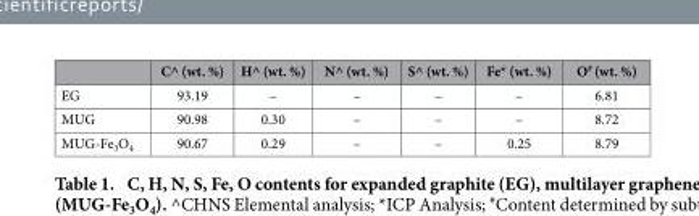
<table><thead><tr><td></td><td>C^ (wt. %)</td><td>H^ (wt. %)</td><td>N^ (wt. %)</td><td>S^ (wt. %)</td><td>Fe* (wt. %)</td><td>O<sup>#</sup> (wt. %)</td></tr></thead><tbody><tr><td>EG</td><td>93.19</td><td>–</td><td>–</td><td>–</td><td>–</td><td>6.81</td></tr><tr><td>MUG</td><td>90.98</td><td>0.30</td><td>–</td><td>–</td><td>–</td><td>8.72</td></tr><tr><td>MUG-Fe<sub>3</sub>O<sub>4</sub></td><td>90.67</td><td>0.29</td><td>–</td><td>–</td><td>0.25</td><td>8.79</td></tr></tbody></table>